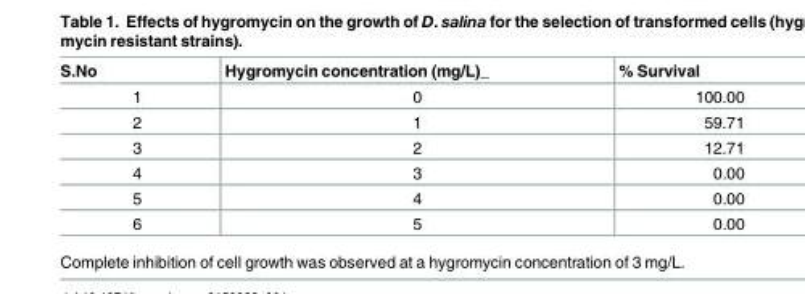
<table><thead><tr><td>S.No</td><td>Hygromycin concentration (mg/L)_</td><td>% Survival</td></tr></thead><tbody><tr><td>1</td><td>0</td><td>100.00</td></tr><tr><td>2</td><td>1</td><td>59.71</td></tr><tr><td>3</td><td>2</td><td>12.71</td></tr><tr><td>4</td><td>3</td><td>0.00</td></tr><tr><td>5</td><td>4</td><td>0.00</td></tr><tr><td>6</td><td>5</td><td>0.00</td></tr></tbody></table>